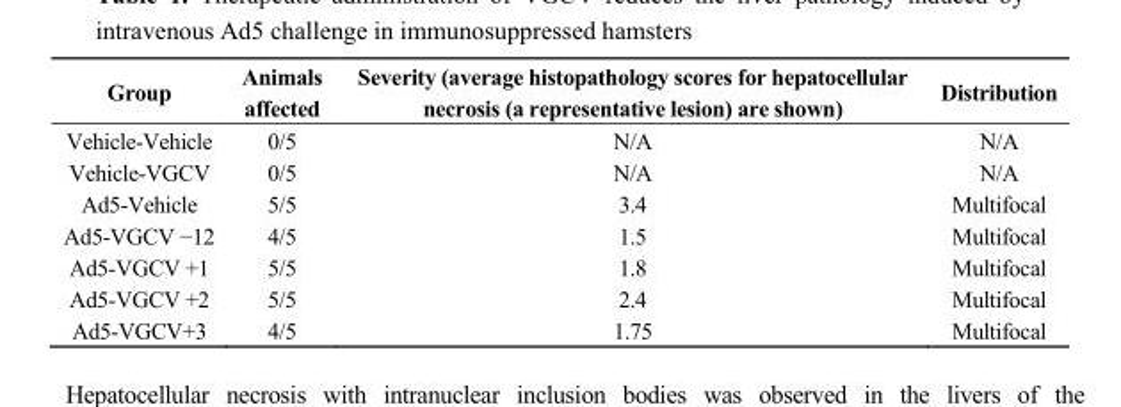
<table><thead><tr><td>Group</td><td>Animals affected</td><td>Severity (average histopathology scores for hepatocellular necrosis (a representative lesion) are shown)</td><td>Distribution</td></tr></thead><tbody><tr><td>Vehicle-Vehicle</td><td>0/5</td><td>N/A</td><td>N/A</td></tr><tr><td>Vehicle-VGCV</td><td>0/5</td><td>N/A</td><td>N/A</td></tr><tr><td>Ad5-Vehicle</td><td>5/5</td><td>3.4</td><td>Multifocal</td></tr><tr><td>Ad5-VGCV −12</td><td>4/5</td><td>1.5</td><td>Multifocal</td></tr><tr><td>Ad5-VGCV +1</td><td>5/5</td><td>1.8</td><td>Multifocal</td></tr><tr><td>Ad5-VGCV +2</td><td>5/5</td><td>2.4</td><td>Multifocal</td></tr><tr><td>Ad5-VGCV+3</td><td>4/5</td><td>1.75</td><td>Multifocal</td></tr></tbody></table>